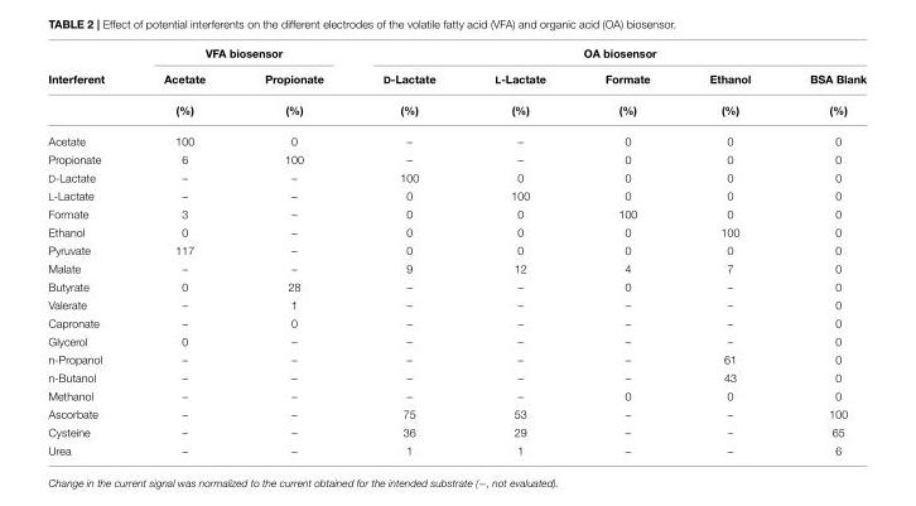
<table><thead><tr><td rowspan="2">Interferent</td><td colspan="2">VFA biosensor</td><td colspan="5">OA biosensor</td></tr><tr><td>Acetate</td><td>Propionate</td><td>D-Lactate</td><td>L-Lactate</td><td>Formate</td><td>Ethanol</td><td>BSA Blank</td></tr></thead><tbody><tr><td></td><td>(%)</td><td>(%)</td><td>(%)</td><td>(%)</td><td>(%)</td><td>(%)</td><td>(%)</td></tr><tr><td>Acetate</td><td>100</td><td>0</td><td>–</td><td>–</td><td>0</td><td>0</td><td>0</td></tr><tr><td>Propionate</td><td>6</td><td>100</td><td>–</td><td>–</td><td>0</td><td>0</td><td>0</td></tr><tr><td>D-Lactate</td><td>–</td><td>–</td><td>100</td><td>0</td><td>0</td><td>0</td><td>0</td></tr><tr><td>L-Lactate</td><td>–</td><td>–</td><td>0</td><td>100</td><td>0</td><td>0</td><td>0</td></tr><tr><td>Formate</td><td>3</td><td>–</td><td>0</td><td>0</td><td>100</td><td>0</td><td>0</td></tr><tr><td>Ethanol</td><td>0</td><td>–</td><td>0</td><td>0</td><td>0</td><td>100</td><td>0</td></tr><tr><td>Pyruvate</td><td>117</td><td>–</td><td>0</td><td>0</td><td>0</td><td>0</td><td>0</td></tr><tr><td>Malate</td><td>–</td><td>–</td><td>9</td><td>12</td><td>4</td><td>7</td><td>0</td></tr><tr><td>Butyrate</td><td>0</td><td>28</td><td>–</td><td>–</td><td>0</td><td>–</td><td>0</td></tr><tr><td>Valerate</td><td>–</td><td>1</td><td>–</td><td>–</td><td>–</td><td>–</td><td>0</td></tr><tr><td>Capronate</td><td>–</td><td>0</td><td>–</td><td>–</td><td>–</td><td>–</td><td>0</td></tr><tr><td>Glycerol</td><td>0</td><td>–</td><td>–</td><td>–</td><td>–</td><td>–</td><td>0</td></tr><tr><td>n-Propanol</td><td>–</td><td>–</td><td>–</td><td>–</td><td>–</td><td>61</td><td>0</td></tr><tr><td>n-Butanol</td><td>–</td><td>–</td><td>–</td><td>–</td><td>–</td><td>43</td><td>0</td></tr><tr><td>Methanol</td><td>–</td><td>–</td><td>–</td><td>–</td><td>0</td><td>0</td><td>0</td></tr><tr><td>Ascorbate</td><td>–</td><td>–</td><td>75</td><td>53</td><td>–</td><td>–</td><td>100</td></tr><tr><td>Cysteine</td><td>–</td><td>–</td><td>36</td><td>29</td><td>–</td><td>–</td><td>65</td></tr><tr><td>Urea</td><td>–</td><td>–</td><td>1</td><td>1</td><td>–</td><td>–</td><td>6</td></tr></tbody></table>